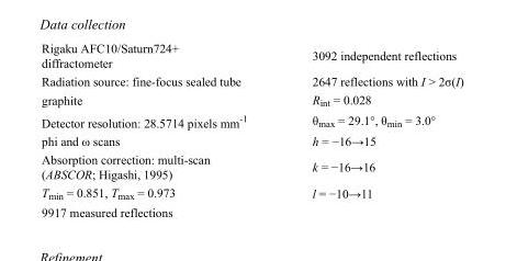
<table><tbody><tr><td>Rigaku AFC10/Saturn724+ diffractometer</td><td>3092 independent reflections</td></tr><tr><td>Radiation source: fine-focus sealed tube</td><td>2647 reflections with I &gt; 2σ(I)</td></tr><tr><td>graphite</td><td>R<sub>int</sub> = 0.028</td></tr><tr><td>Detector resolution: 28.5714 pixels mm<sup>-1</sup></td><td>θ<sub>max</sub> = 29.1°, θ<sub>min</sub> = 3.0°</td></tr><tr><td>phi and ω scans</td><td>h = −16→15</td></tr><tr><td>Absorption correction: multi-scan (ABSCOR; Higashi, 1995)</td><td>k = −16→16</td></tr><tr><td>T<sub>min</sub> = 0.851, T<sub>max</sub> = 0.973</td><td>l = −10→11</td></tr><tr><td>9917 measured reflections</td><td></td></tr></tbody></table>